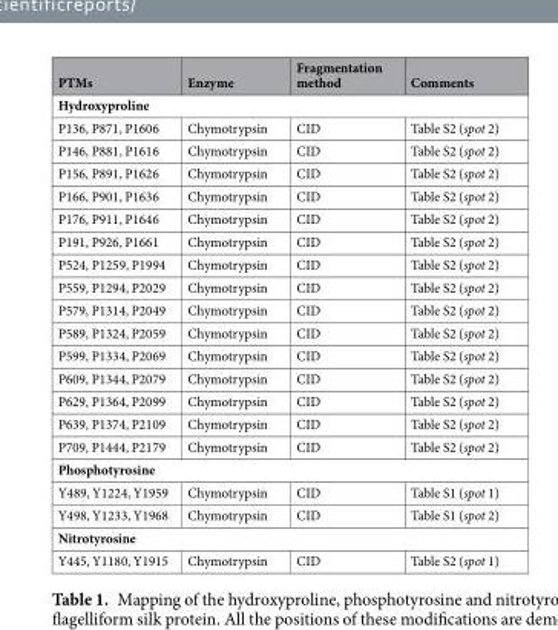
<table><thead><tr><td>PTMs</td><td>Enzyme</td><td>Fragmentation method</td><td>Comments</td></tr></thead><tbody><tr><td colspan="4">Hydroxyproline</td></tr><tr><td>P136, P871, P1606</td><td>Chymotrypsin</td><td>CID</td><td>Table S2 (spot 2)</td></tr><tr><td>P146, P881, P1616</td><td>Chymotrypsin</td><td>CID</td><td>Table S2 (spot 2)</td></tr><tr><td>P156, P891, P1626</td><td>Chymotrypsin</td><td>CID</td><td>Table S2 (spot 2)</td></tr><tr><td>P166, P901, P1636</td><td>Chymotrypsin</td><td>CID</td><td>Table S2 (spot 2)</td></tr><tr><td>P176, P911, P1646</td><td>Chymotrypsin</td><td>CID</td><td>Table S2 (spot 2)</td></tr><tr><td>P191, P926, P1661</td><td>Chymotrypsin</td><td>CID</td><td>Table S2 (spot 2)</td></tr><tr><td>P524, P1259, P1994</td><td>Chymotrypsin</td><td>CID</td><td>Table S2 (spot 2)</td></tr><tr><td>P559, P1294, P2029</td><td>Chymotrypsin</td><td>CID</td><td>Table S2 (spot 2)</td></tr><tr><td>P579, P1314, P2049</td><td>Chymotrypsin</td><td>CID</td><td>Table S2 (spot 2)</td></tr><tr><td>P589, P1324, P2059</td><td>Chymotrypsin</td><td>CID</td><td>Table S2 (spot 2)</td></tr><tr><td>P599, P1334, P2069</td><td>Chymotrypsin</td><td>CID</td><td>Table S2 (spot 2)</td></tr><tr><td>P609, P1344, P2079</td><td>Chymotrypsin</td><td>CID</td><td>Table S2 (spot 2)</td></tr><tr><td>P629, P1364, P2099</td><td>Chymotrypsin</td><td>CID</td><td>Table S2 (spot 2)</td></tr><tr><td>P639, P1374, P2109</td><td>Chymotrypsin</td><td>CID</td><td>Table S2 (spot 2)</td></tr><tr><td>P709, P1444, P2179</td><td>Chymotrypsin</td><td>CID</td><td>Table S2 (spot 2)</td></tr><tr><td colspan="4">Phosphotyrosine</td></tr><tr><td>Y489, Y1224, Y1959</td><td>Chymotrypsin</td><td>CID</td><td>Table S1 (spot 1)</td></tr><tr><td>Y498, Y1233, Y1968</td><td>Chymotrypsin</td><td>CID</td><td>Table S1 (spot 2)</td></tr><tr><td colspan="4">Nitrotyrosine</td></tr><tr><td>Y445, Y1180, Y1915</td><td>Chymotrypsin</td><td>CID</td><td>Table S2 (spot 1)</td></tr></tbody></table>